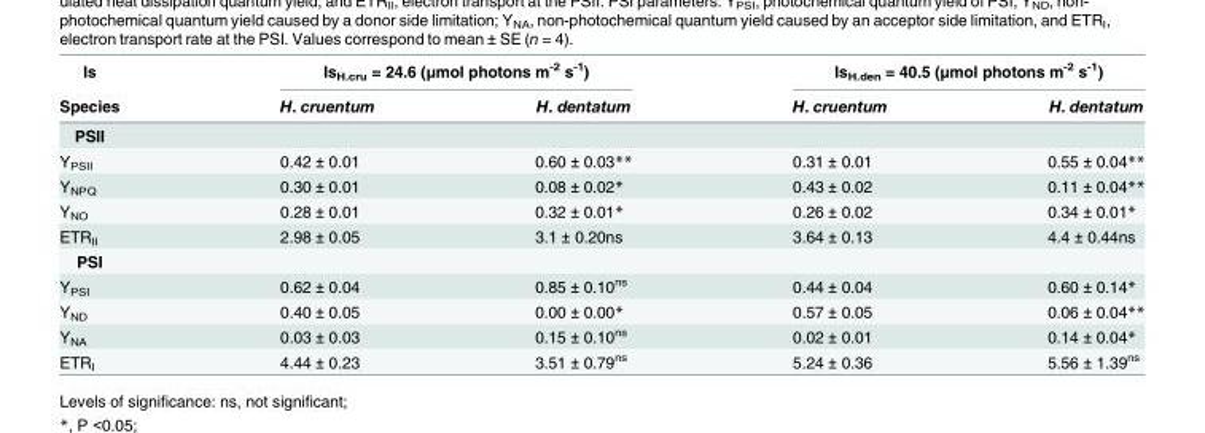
<table><thead><tr><td rowspan="2">Is Species</td><td colspan="2">Is<sub>H.cru</sub> = 24.6 (μmol photons m<sup>-2</sup> s<sup>-1</sup>)</td><td colspan="2">Is<sub>H.den</sub> = 40.5 (μmol photons m<sup>-2</sup> s<sup>-1</sup>)</td></tr><tr><td>H. cruentum</td><td>H. dentatum</td><td>H. cruentum</td><td>H. dentatum</td></tr></thead><tbody><tr><td colspan="5">PSII</td></tr><tr><td>Y<sub>PSII</sub></td><td>0.42 ± 0.01</td><td>0.60 ± 0.03**</td><td>0.31 ± 0.01</td><td>0.55 ± 0.04**</td></tr><tr><td>Y<sub>NPQ</sub></td><td>0.30 ± 0.01</td><td>0.08 ± 0.02*</td><td>0.43 ± 0.02</td><td>0.11 ± 0.04**</td></tr><tr><td>Y<sub>NO</sub></td><td>0.28 ± 0.01</td><td>0.32 ± 0.01*</td><td>0.26 ± 0.02</td><td>0.34 ± 0.01*</td></tr><tr><td>ETR<sub>II</sub></td><td>2.98 ± 0.05</td><td>3.1 ± 0.20ns</td><td>3.64 ± 0.13</td><td>4.4 ± 0.44ns</td></tr><tr><td colspan="5">PSI</td></tr><tr><td>Y<sub>PSI</sub></td><td>0.62 ± 0.04</td><td>0.85 ± 0.10<sup>ns</sup></td><td>0.44 ± 0.04</td><td>0.60 ± 0.14*</td></tr><tr><td>Y<sub>ND</sub></td><td>0.40 ± 0.05</td><td>0.00 ± 0.00*</td><td>0.57 ± 0.05</td><td>0.06 ± 0.04**</td></tr><tr><td>Y<sub>NA</sub></td><td>0.03 ± 0.03</td><td>0.15 ± 0.10<sup>ns</sup></td><td>0.02 ± 0.01</td><td>0.14 ± 0.04*</td></tr><tr><td>ETR<sub>I</sub></td><td>4.44 ± 0.23</td><td>3.51 ± 0.79<sup>ns</sup></td><td>5.24 ± 0.36</td><td>5.56 ± 1.39<sup>ns</sup></td></tr></tbody></table>